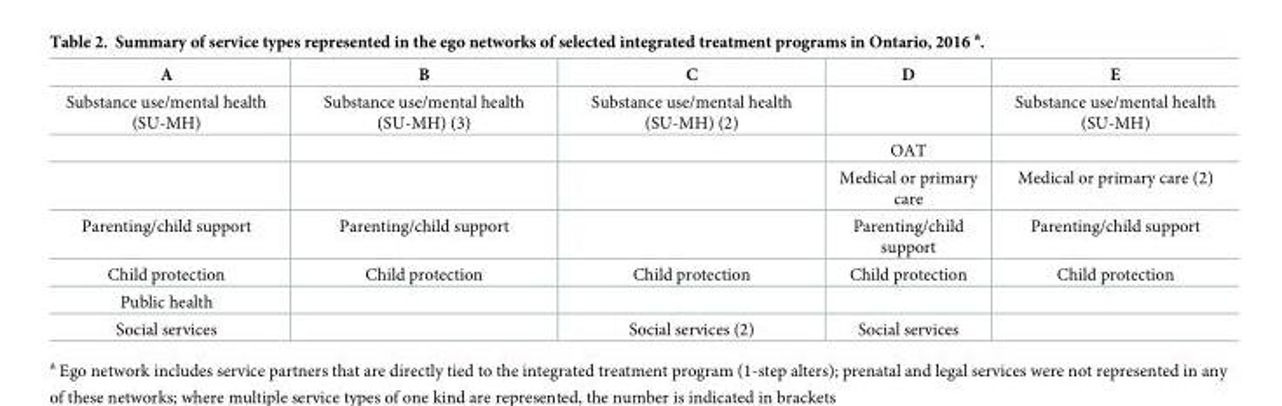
<table><thead><tr><td>A</td><td>B</td><td>C</td><td>D</td><td>E</td></tr></thead><tbody><tr><td rowspan="3">Substance use/mental health (SU-MH)</td><td>Substance use/mental health (SU-MH) (3)</td><td>Substance use/mental health (SU-MH) (2)</td><td></td><td>Substance use/mental health (SU-MH)</td></tr><tr><td></td><td></td><td>OAT</td><td></td></tr><tr><td></td><td></td><td>Medical or primary care</td><td>Medical or primary care (2)</td></tr><tr><td>Parenting/child support</td><td>Parenting/child support</td><td></td><td>Parenting/child support</td><td>Parenting/child support</td></tr><tr><td>Child protection</td><td>Child protection</td><td>Child protection</td><td>Child protection</td><td>Child protection</td></tr><tr><td colspan="5">Public health</td></tr><tr><td>Social services</td><td></td><td>Social services (2)</td><td>Social services</td><td></td></tr></tbody></table>